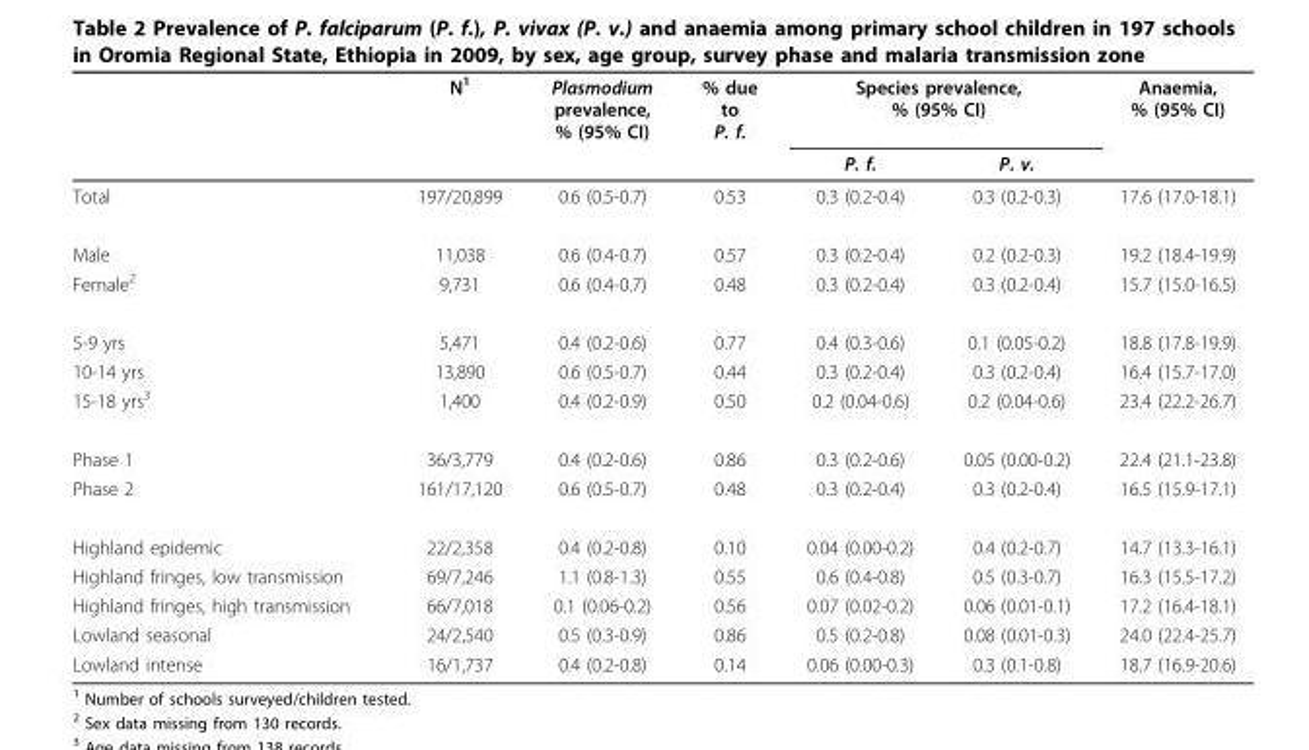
<table><thead><tr><td rowspan="2"></td><td rowspan="2">N<sup>1</sup></td><td rowspan="2">Plasmodium prevalence, % (95% CI)</td><td rowspan="2">% due to P. f.</td><td colspan="2">Species prevalence, % (95% CI)</td><td rowspan="2">Anaemia, % (95% CI)</td></tr><tr><td>P. f.</td><td>P. v.</td></tr></thead><tbody><tr><td>Total</td><td>197/20,899</td><td>0.6 (0.5-0.7)</td><td>0.53</td><td>0.3 (0.2-0.4)</td><td>0.3 (0.2-0.3)</td><td>17.6 (17.0-18.1)</td></tr><tr><td>Male</td><td>11,038</td><td>0.6 (0.4-0.7)</td><td>0.57</td><td>0.3 (0.2-0.4)</td><td>0.2 (0.2-0.3)</td><td>19.2 (18.4-19.9)</td></tr><tr><td>Female<sup>2</sup></td><td>9,731</td><td>0.6 (0.4-0.7)</td><td>0.48</td><td>0.3 (0.2-0.4)</td><td>0.3 (0.2-0.4)</td><td>15.7 (15.0-16.5)</td></tr><tr><td>5-9 yrs</td><td>5,471</td><td>0.4 (0.2-0.6)</td><td>0.77</td><td>0.4 (0.3-0.6)</td><td>0.1 (0.05-0.2)</td><td>18.8 (17.8-19.9)</td></tr><tr><td>10-14 yrs</td><td>13,890</td><td>0.6 (0.5-0.7)</td><td>0.44</td><td>0.3 (0.2-0.4)</td><td>0.3 (0.2-0.4)</td><td>16.4 (15.7-17.0)</td></tr><tr><td>15-18 yrs<sup>3</sup></td><td>1,400</td><td>0.4 (0.2-0.9)</td><td>0.50</td><td>0.2 (0.04-0.6)</td><td>0.2 (0.04-0.6)</td><td>23.4 (22.2-26.7)</td></tr><tr><td>Phase 1</td><td>36/3,779</td><td>0.4 (0.2-0.6)</td><td>0.86</td><td>0.3 (0.2-0.6)</td><td>0.05 (0.00-0.2)</td><td>22.4 (21.1-23.8)</td></tr><tr><td>Phase 2</td><td>161/17,120</td><td>0.6 (0.5-0.7)</td><td>0.48</td><td>0.3 (0.2-0.4)</td><td>0.3 (0.2-0.4)</td><td>16.5 (15.9-17.1)</td></tr><tr><td>Highland epidemic</td><td>22/2,358</td><td>0.4 (0.2-0.8)</td><td>0.10</td><td>0.04 (0.00-0.2)</td><td>0.4 (0.2-0.7)</td><td>14.7 (13.3-16.1)</td></tr><tr><td>Highland fringes, low transmission</td><td>69/7,246</td><td>1.1 (0.8-1.3)</td><td>0.55</td><td>0.6 (0.4-0.8)</td><td>0.5 (0.3-0.7)</td><td>16.3 (15.5-17.2)</td></tr><tr><td>Highland fringes, high transmission</td><td>66/7,018</td><td>0.1 (0.06-0.2)</td><td>0.56</td><td>0.07 (0.02-0.2)</td><td>0.06 (0.01-0.1)</td><td>17.2 (16.4-18.1)</td></tr><tr><td>Lowland seasonal</td><td>24/2,540</td><td>0.5 (0.3-0.9)</td><td>0.86</td><td>0.5 (0.2-0.8)</td><td>0.08 (0.01-0.3)</td><td>24.0 (22.4-25.7)</td></tr><tr><td>Lowland intense</td><td>16/1,737</td><td>0.4 (0.2-0.8)</td><td>0.14</td><td>0.06 (0.00-0.3)</td><td>0.3 (0.1-0.8)</td><td>18.7 (16.9-20.6)</td></tr></tbody></table>